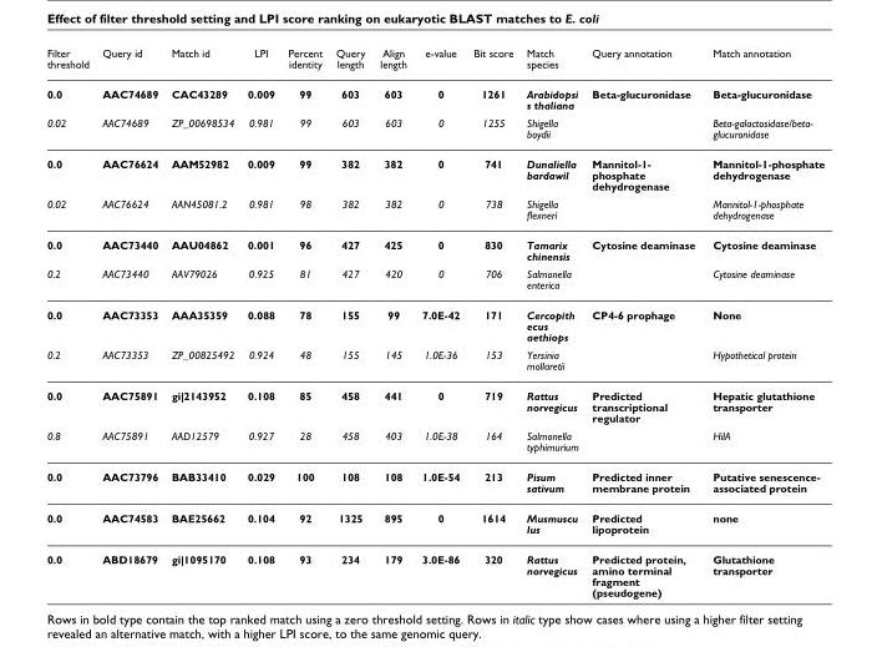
<table><thead><tr><td>Filter threshold</td><td>Query id</td><td>Match id</td><td>LPI</td><td>Percent identity</td><td>Query length</td><td>Align length</td><td>e-value</td><td>Bit score</td><td>Match species</td><td>Query annotation</td><td>Match annotation</td></tr></thead><tbody><tr><td>0.0</td><td>AAC74689</td><td>CAC43289</td><td>0.009</td><td>99</td><td>603</td><td>603</td><td>0</td><td>1261</td><td>Arabidopsi s thaliana</td><td>Beta-glucuronidase</td><td>Beta-glucuronidase</td></tr><tr><td>0.02</td><td>AAC74689</td><td>ZP_00698534</td><td>0.981</td><td>99</td><td>603</td><td>603</td><td>0</td><td>1255</td><td>Shigella boydii</td><td></td><td>Beta-galactosidase/beta- glucuronidase</td></tr><tr><td>0.0</td><td>AAC76624</td><td>AAM52982</td><td>0.009</td><td>99</td><td>382</td><td>382</td><td>0</td><td>741</td><td>Dunaliella bardawil</td><td>Mannitol-1- phosphate dehydrogenase</td><td>Mannitol-1-phosphate dehydrogenase</td></tr><tr><td>0.02</td><td>AAC76624</td><td>AAN45081.2</td><td>0.981</td><td>98</td><td>382</td><td>382</td><td>0</td><td>738</td><td>Shigella flexneri</td><td></td><td>Mannitol-1-phosphate dehydrogenase</td></tr><tr><td>0.0</td><td>AAC73440</td><td>AAU04862</td><td>0.001</td><td>96</td><td>427</td><td>425</td><td>0</td><td>830</td><td>Tamarix chinensis</td><td>Cytosine deaminase</td><td>Cytosine deaminase</td></tr><tr><td>0.2</td><td>AAC73440</td><td>AAV79026</td><td>0.925</td><td>81</td><td>427</td><td>420</td><td>0</td><td>706</td><td>Salmonella enterica</td><td></td><td>Cytosine deaminase</td></tr><tr><td>0.0</td><td>AAC73353</td><td>AAA35359</td><td>0.088</td><td>78</td><td>155</td><td>99</td><td>7.0E-42</td><td>171</td><td>Cercopith ecus aethiops</td><td>CP4-6 prophage</td><td>None</td></tr><tr><td>0.2</td><td>AAC73353</td><td>ZP_00825492</td><td>0.924</td><td>48</td><td>155</td><td>145</td><td>1.0E-36</td><td>153</td><td>Yersinia mollaretii</td><td></td><td>Hypothetical protein</td></tr><tr><td>0.0</td><td>AAC75891</td><td>gi|2143952</td><td>0.108</td><td>85</td><td>458</td><td>441</td><td>0</td><td>719</td><td>Rattus norvegicus</td><td>Predicted transcriptional regulator</td><td>Hepatic glutathione transporter</td></tr><tr><td>0.8</td><td>AAC75891</td><td>AAD12579</td><td>0.927</td><td>28</td><td>458</td><td>403</td><td>1.0E-38</td><td>164</td><td>Salmonella typhimurium</td><td></td><td>HilA</td></tr><tr><td>0.0</td><td>AAC73796</td><td>BAB33410</td><td>0.029</td><td>100</td><td>108</td><td>108</td><td>1.0E-54</td><td>213</td><td>Pisum sativum</td><td>Predicted inner membrane protein</td><td>Putative senescence- associated protein</td></tr><tr><td>0.0</td><td>AAC74583</td><td>BAE25662</td><td>0.104</td><td>92</td><td>1325</td><td>895</td><td>0</td><td>1614</td><td>Musmuscu lus</td><td>Predicted lipoprotein</td><td>none</td></tr><tr><td>0.0</td><td>ABD18679</td><td>gi|1095170</td><td>0.108</td><td>93</td><td>234</td><td>179</td><td>3.0E-86</td><td>320</td><td>Rattus norvegicus</td><td>Predicted protein, amino terminal fragment (pseudogene)</td><td>Glutathione transporter</td></tr></tbody></table>